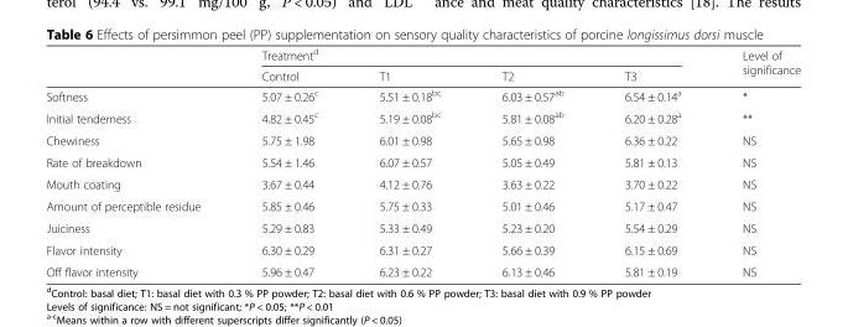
<table><thead><tr><td rowspan="2"></td><td colspan="4">Treatment<sup>d</sup></td><td rowspan="2">Level of significance</td></tr><tr><td>Control</td><td>T1</td><td>T2</td><td>T3</td></tr></thead><tbody><tr><td>Softness</td><td>5.07 ± 0.26<sup>c</sup></td><td>5.51 ± 0.18<sup>bc</sup></td><td>6.03 ± 0.57<sup>ab</sup></td><td>6.54 ± 0.14<sup>a</sup></td><td>*</td></tr><tr><td>Initial tenderness</td><td>4.82 ± 0.45<sup>c</sup></td><td>5.19 ± 0.08<sup>bc</sup></td><td>5.81 ± 0.08<sup>ab</sup></td><td>6.20 ± 0.28<sup>a</sup></td><td>**</td></tr><tr><td>Chewiness</td><td>5.75 ± 1.98</td><td>6.01 ± 0.98</td><td>5.65 ± 0.98</td><td>6.36 ± 0.22</td><td>NS</td></tr><tr><td>Rate of breakdown</td><td>5.54 ± 1.46</td><td>6.07 ± 0.57</td><td>5.05 ± 0.49</td><td>5.81 ± 0.13</td><td>NS</td></tr><tr><td>Mouth coating</td><td>3.67 ± 0.44</td><td>4.12 ± 0.76</td><td>3.63 ± 0.22</td><td>3.70 ± 0.22</td><td>NS</td></tr><tr><td>Amount of perceptible residue</td><td>5.85 ± 0.46</td><td>5.75 ± 0.33</td><td>5.01 ± 0.46</td><td>5.17 ± 0.47</td><td>NS</td></tr><tr><td>Juiciness</td><td>5.29 ± 0.83</td><td>5.33 ± 0.49</td><td>5.23 ± 0.20</td><td>5.54 ± 0.29</td><td>NS</td></tr><tr><td>Flavor intensity</td><td>6.30 ± 0.29</td><td>6.31 ± 0.27</td><td>5.66 ± 0.39</td><td>6.15 ± 0.69</td><td>NS</td></tr><tr><td>Off flavor intensity</td><td>5.96 ± 0.47</td><td>6.23 ± 0.22</td><td>6.13 ± 0.46</td><td>5.81 ± 0.19</td><td>NS</td></tr></tbody></table>